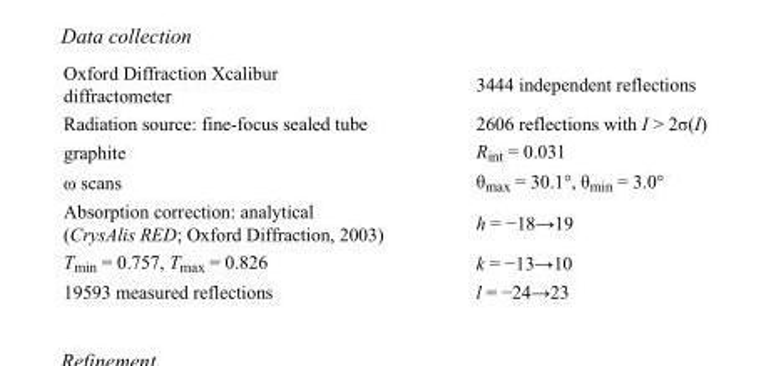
<table><tbody><tr><td>Oxford Diffraction Xcalibur diffractometer</td><td>3444 independent reflections</td></tr><tr><td>Radiation source: fine-focus sealed tube</td><td>2606 reflections with I &gt; 2σ(I)</td></tr><tr><td>graphite</td><td>R<sub>int</sub> = 0.031</td></tr><tr><td>ω scans</td><td>θ<sub>max</sub> = 30.1°, θ<sub>min</sub> = 3.0°</td></tr><tr><td>Absorption correction: analytical (CrysAlis RED; Oxford Diffraction, 2003)</td><td>h = −18→19</td></tr><tr><td>T<sub>min</sub> = 0.757, T<sub>max</sub> = 0.826</td><td>k = −13→10</td></tr><tr><td>19593 measured reflections</td><td>l = −24→23</td></tr></tbody></table>